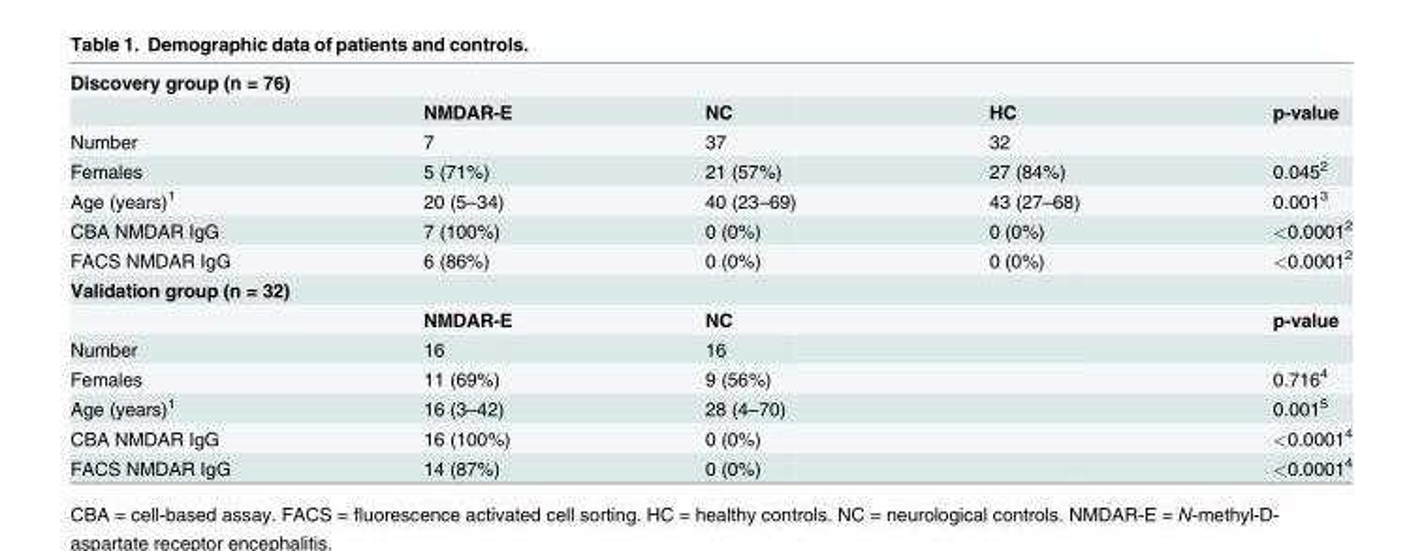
<table><tbody><tr><td colspan="5">Discovery group (n = 76)</td></tr><tr><td></td><td>NMDAR-E</td><td>NC</td><td>HC</td><td>p-value</td></tr><tr><td>Number</td><td>7</td><td>37</td><td>32</td><td></td></tr><tr><td>Females</td><td>5 (71%)</td><td>21 (57%)</td><td>27 (84%)</td><td>0.045<sup>2</sup></td></tr><tr><td>Age (years)<sup>1</sup></td><td>20 (5–34)</td><td>40 (23–69)</td><td>43 (27–68)</td><td>0.001<sup>3</sup></td></tr><tr><td>CBA NMDAR IgG</td><td>7 (100%)</td><td>0 (0%)</td><td>0 (0%)</td><td>&lt;0.0001<sup>2</sup></td></tr><tr><td>FACS NMDAR IgG</td><td>6 (86%)</td><td>0 (0%)</td><td>0 (0%)</td><td>&lt;0.0001<sup>2</sup></td></tr><tr><td colspan="5">Validation group (n = 32)</td></tr><tr><td></td><td>NMDAR-E</td><td>NC</td><td></td><td>p-value</td></tr><tr><td>Number</td><td>16</td><td>16</td><td></td><td></td></tr><tr><td>Females</td><td>11 (69%)</td><td>9 (56%)</td><td></td><td>0.716<sup>4</sup></td></tr><tr><td>Age (years)<sup>1</sup></td><td>16 (3–42)</td><td>28 (4–70)</td><td></td><td>0.001<sup>5</sup></td></tr><tr><td>CBA NMDAR IgG</td><td>16 (100%)</td><td>0 (0%)</td><td></td><td>&lt;0.0001<sup>4</sup></td></tr><tr><td>FACS NMDAR IgG</td><td>14 (87%)</td><td>0 (0%)</td><td></td><td>&lt;0.0001<sup>4</sup></td></tr></tbody></table>